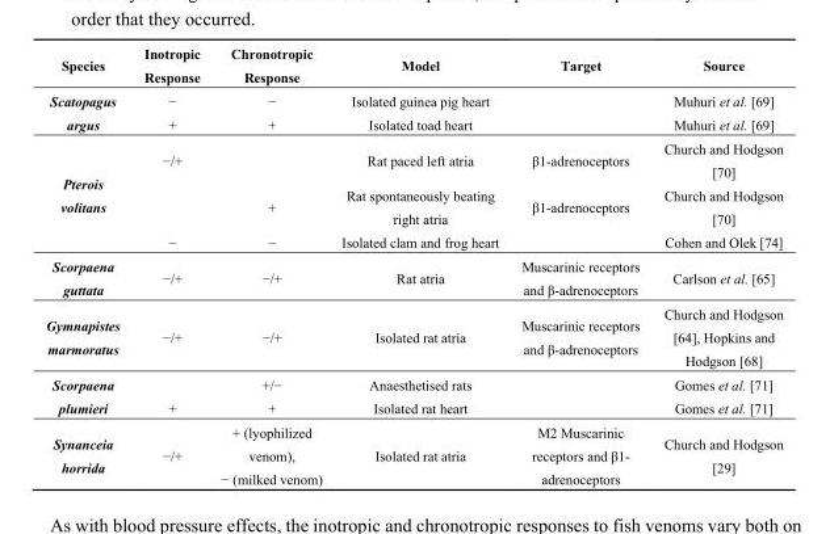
<table><thead><tr><td>Species</td><td>Inotropic Response</td><td>Chronotropic Response</td><td>Model</td><td>Target</td><td>Source</td></tr></thead><tbody><tr><td rowspan="2">Scatopagus argus</td><td>−</td><td>−</td><td>Isolated guinea pig heart</td><td></td><td>Muhuri et al. [69]</td></tr><tr><td>+</td><td>+</td><td>Isolated toad heart</td><td></td><td>Muhuri et al. [69]</td></tr><tr><td rowspan="3">Pterois volitans</td><td>−/+</td><td></td><td>Rat paced left atria</td><td>β1-adrenoceptors</td><td>Church and Hodgson [70]</td></tr><tr><td></td><td>+</td><td>Rat spontaneously beating right atria</td><td>β1-adrenoceptors</td><td>Church and Hodgson [70]</td></tr><tr><td>−</td><td>−</td><td>Isolated clam and frog heart</td><td></td><td>Cohen and Olek [74]</td></tr><tr><td>Scorpaena guttata</td><td>−/+</td><td>−/+</td><td>Rat atria</td><td>Muscarinic receptors and β-adrenoceptors</td><td>Carlson et al. [65]</td></tr><tr><td>Gymnapistes marmoratus</td><td>−/+</td><td>−/+</td><td>Isolated rat atria</td><td>Muscarinic receptors and β-adrenoceptors</td><td>Church and Hodgson [64], Hopkins and Hodgson [68]</td></tr><tr><td rowspan="2">Scorpaena plumieri</td><td></td><td>+/−</td><td>Anaesthetised rats</td><td></td><td>Gomes et al. [71]</td></tr><tr><td>+</td><td>+</td><td>Isolated rat heart</td><td></td><td>Gomes et al. [71]</td></tr><tr><td>Synanceia horrida</td><td>−/+</td><td>+ (lyophilized venom), − (milked venom)</td><td>Isolated rat atria</td><td>M2 Muscarinic receptors and β1- adrenoceptors</td><td>Church and Hodgson [29]</td></tr></tbody></table>